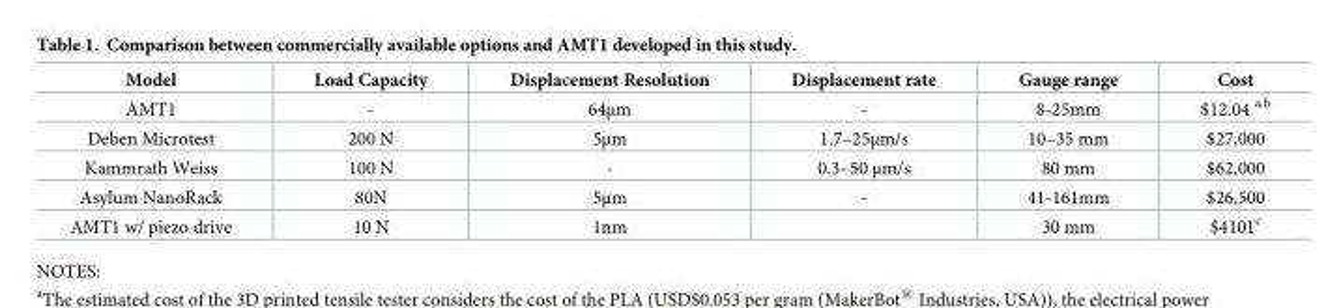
<table><thead><tr><td>Model</td><td>Load Capacity</td><td>Displacement Resolution</td><td>Displacement rate</td><td>Gauge range</td><td>Cost</td></tr></thead><tbody><tr><td>AMT1</td><td>-</td><td>64μm</td><td>-</td><td>8-25mm</td><td>$12.04 <sup>a,b</sup></td></tr><tr><td>Deben Microtest</td><td>200 N</td><td>5μm</td><td>1.7–25μm/s</td><td>10–35 mm</td><td>$27,000</td></tr><tr><td>Kammrath Weiss</td><td>100 N</td><td>-</td><td>0.3–50 μm/s</td><td>80 mm</td><td>$62,000</td></tr><tr><td>Asylum NanoRack</td><td>80N</td><td>5μm</td><td>-</td><td>41-161mm</td><td>$26,500</td></tr><tr><td>AMT1 w/ piezo drive</td><td>10 N</td><td>1nm</td><td></td><td>30 mm</td><td>$4101<sup>c</sup></td></tr></tbody></table>